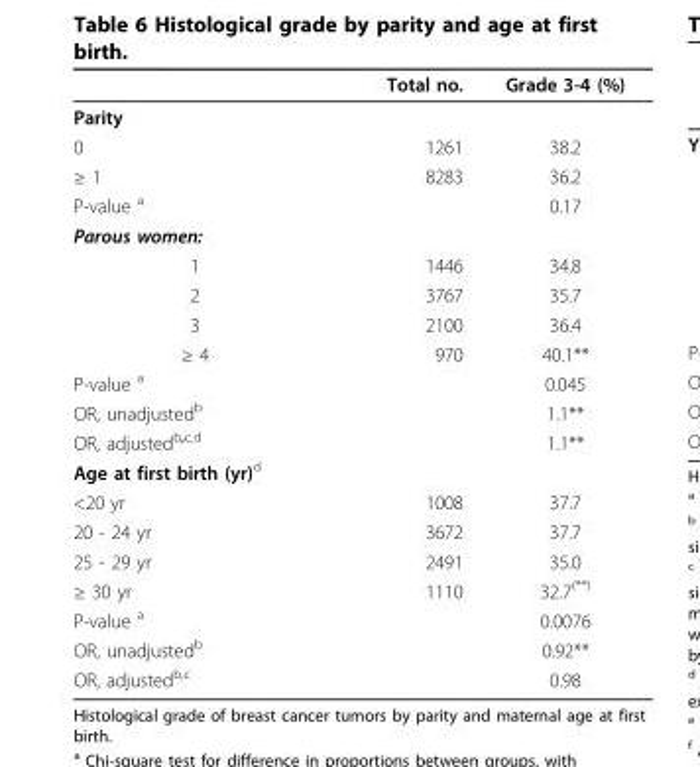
<table><thead><tr><td></td><td>Total no.</td><td>Grade 3-4 (%)</td></tr></thead><tbody><tr><td colspan="3">Parity</td></tr><tr><td>0</td><td>1261</td><td>38.2</td></tr><tr><td>≥ 1</td><td>8283</td><td>36.2</td></tr><tr><td>P-value <sup>a</sup></td><td></td><td>0.17</td></tr><tr><td colspan="3">Parous women:</td></tr><tr><td>1</td><td>1446</td><td>34.8</td></tr><tr><td>2</td><td>3767</td><td>35.7</td></tr><tr><td>3</td><td>2100</td><td>36.4</td></tr><tr><td>≥ 4</td><td>970</td><td>40.1**</td></tr><tr><td>P-value <sup>a</sup></td><td></td><td>0.045</td></tr><tr><td>OR, unadjusted<sup>b</sup></td><td></td><td>1.1**</td></tr><tr><td>OR, adjusted<sup>b,c,d</sup></td><td></td><td>1.1**</td></tr><tr><td colspan="3">Age at first birth (yr)<sup>d</sup></td></tr><tr><td>&lt;20 yr</td><td>1008</td><td>37.7</td></tr><tr><td>20 - 24 yr</td><td>3672</td><td>37.7</td></tr><tr><td>25 - 29 yr</td><td>2491</td><td>35.0</td></tr><tr><td>≥ 30 yr</td><td>1110</td><td>32.7<sup>(**)</sup></td></tr><tr><td>P-value <sup>a</sup></td><td></td><td>0.0076</td></tr><tr><td>OR, unadjusted<sup>b</sup></td><td></td><td>0.92**</td></tr><tr><td>OR, adjusted<sup>b,c</sup></td><td></td><td>0.98</td></tr></tbody></table>